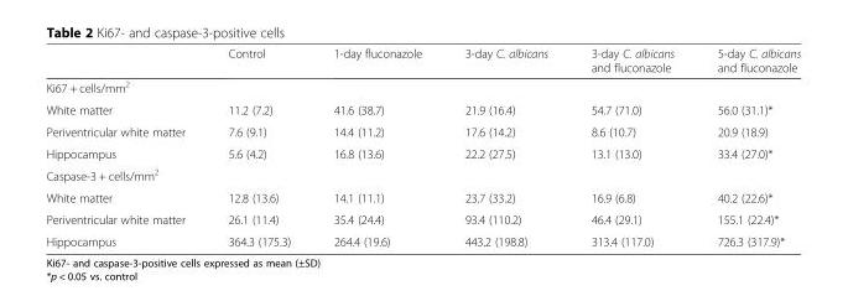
<table><thead><tr><td></td><td>Control</td><td>1-day fluconazole</td><td>3-day C. albicans</td><td>3-day C. albicans and fluconazole</td><td>5-day C. albicans and fluconazole</td></tr></thead><tbody><tr><td colspan="6">Ki67 + cells/mm<sup>2</sup></td></tr><tr><td>White matter</td><td>11.2 (7.2)</td><td>41.6 (38.7)</td><td>21.9 (16.4)</td><td>54.7 (71.0)</td><td>56.0 (31.1)*</td></tr><tr><td>Periventricular white matter</td><td>7.6 (9.1)</td><td>14.4 (11.2)</td><td>17.6 (14.2)</td><td>8.6 (10.7)</td><td>20.9 (18.9)</td></tr><tr><td>Hippocampus</td><td>5.6 (4.2)</td><td>16.8 (13.6)</td><td>22.2 (27.5)</td><td>13.1 (13.0)</td><td>33.4 (27.0)*</td></tr><tr><td colspan="6">Caspase-3 + cells/mm<sup>2</sup></td></tr><tr><td>White matter</td><td>12.8 (13.6)</td><td>14.1 (11.1)</td><td>23.7 (33.2)</td><td>16.9 (6.8)</td><td>40.2 (22.6)*</td></tr><tr><td>Periventricular white matter</td><td>26.1 (11.4)</td><td>35.4 (24.4)</td><td>93.4 (110.2)</td><td>46.4 (29.1)</td><td>155.1 (22.4)*</td></tr><tr><td>Hippocampus</td><td>364.3 (175.3)</td><td>264.4 (19.6)</td><td>443.2 (198.8)</td><td>313.4 (117.0)</td><td>726.3 (317.9)*</td></tr></tbody></table>